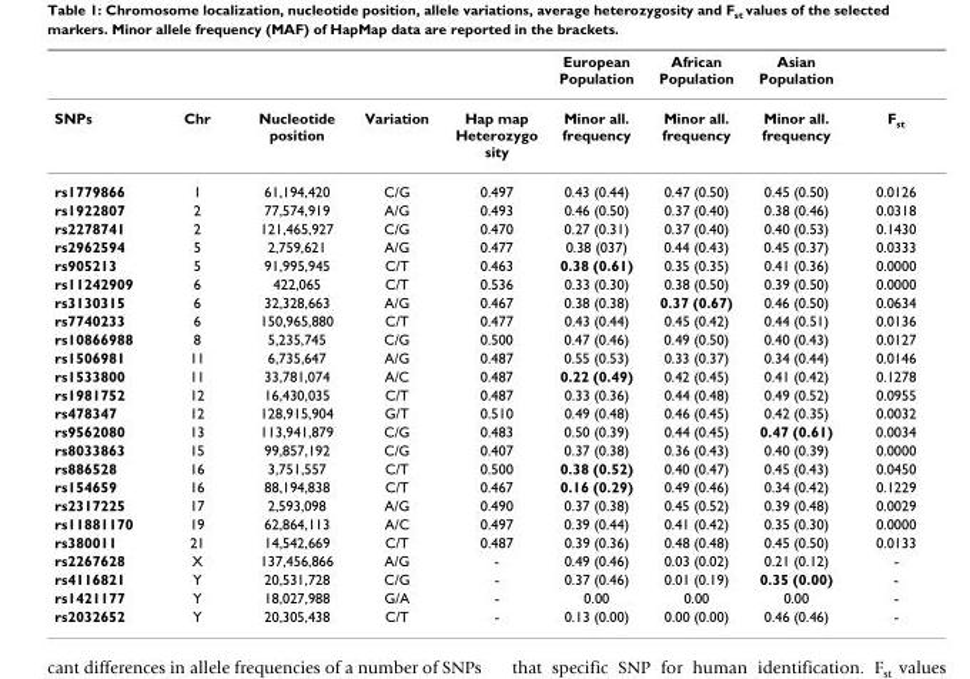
<table><thead><tr><td></td><td></td><td></td><td></td><td></td><td>European Population</td><td>African Population</td><td>Asian Population</td><td></td></tr></thead><tbody><tr><td>SNPs</td><td>Chr</td><td>Nucleotide position</td><td>Variation</td><td>Hap map Heterozygo sity</td><td>Minor all. frequency</td><td>Minor all. frequency</td><td>Minor all. frequency</td><td>F<sub>st</sub></td></tr><tr><td>rs1779866</td><td>1</td><td>61,194,420</td><td>C/G</td><td>0.497</td><td>0.43 (0.44)</td><td>0.47 (0.50)</td><td>0.45 (0.50)</td><td>0.0126</td></tr><tr><td>rs1922807</td><td>2</td><td>77,574,919</td><td>A/G</td><td>0.493</td><td>0.46 (0.50)</td><td>0.37 (0.40)</td><td>0.38 (0.46)</td><td>0.0318</td></tr><tr><td>rs2278741</td><td>2</td><td>121,465,927</td><td>C/G</td><td>0.470</td><td>0.27 (0.31)</td><td>0.37 (0.40)</td><td>0.40 (0.53)</td><td>0.1430</td></tr><tr><td>rs2962594</td><td>5</td><td>2,759,621</td><td>A/G</td><td>0.477</td><td>0.38 (037)</td><td>0.44 (0.43)</td><td>0.45 (0.37)</td><td>0.0333</td></tr><tr><td>rs905213</td><td>5</td><td>91,995,945</td><td>C/T</td><td>0.463</td><td>0.38 (0.61)</td><td>0.35 (0.35)</td><td>0.41 (0.36)</td><td>0.0000</td></tr><tr><td>rs11242909</td><td>6</td><td>422,065</td><td>C/T</td><td>0.536</td><td>0.33 (0.30)</td><td>0.38 (0.50)</td><td>0.39 (0.50)</td><td>0.0000</td></tr><tr><td>rs3130315</td><td>6</td><td>32,328,663</td><td>A/G</td><td>0.467</td><td>0.38 (0.38)</td><td>0.37 (0.67)</td><td>0.46 (0.50)</td><td>0.0634</td></tr><tr><td>rs7740233</td><td>6</td><td>150,965,880</td><td>C/T</td><td>0.477</td><td>0.43 (0.44)</td><td>0.45 (0.42)</td><td>0.44 (0.51)</td><td>0.0136</td></tr><tr><td>rs10866988</td><td>8</td><td>5,235,745</td><td>C/G</td><td>0.500</td><td>0.47 (0.46)</td><td>0.49 (0.50)</td><td>0.40 (0.43)</td><td>0.0127</td></tr><tr><td>rs1506981</td><td>11</td><td>6,735,647</td><td>A/G</td><td>0.487</td><td>0.55 (0.53)</td><td>0.33 (0.37)</td><td>0.34 (0.44)</td><td>0.0146</td></tr><tr><td>rs1533800</td><td>11</td><td>33,781,074</td><td>A/C</td><td>0.487</td><td>0.22 (0.49)</td><td>0.42 (0.45)</td><td>0.41 (0.42)</td><td>0.1278</td></tr><tr><td>rs1981752</td><td>12</td><td>16,430,035</td><td>C/T</td><td>0.487</td><td>0.33 (0.36)</td><td>0.44 (0.48)</td><td>0.49 (0.52)</td><td>0.0955</td></tr><tr><td>rs478347</td><td>12</td><td>128,915,904</td><td>G/T</td><td>0.510</td><td>0.49 (0.48)</td><td>0.46 (0.45)</td><td>0.42 (0.35)</td><td>0.0032</td></tr><tr><td>rs9562080</td><td>13</td><td>113,941,879</td><td>C/G</td><td>0.483</td><td>0.50 (0.39)</td><td>0.44 (0.45)</td><td>0.47 (0.61)</td><td>0.0034</td></tr><tr><td>rs8033863</td><td>15</td><td>99,857,192</td><td>C/G</td><td>0.407</td><td>0.37 (0.38)</td><td>0.36 (0.43)</td><td>0.40 (0.39)</td><td>0.0000</td></tr><tr><td>rs886528</td><td>16</td><td>3,751,557</td><td>C/T</td><td>0.500</td><td>0.38 (0.52)</td><td>0.40 (0.47)</td><td>0.45 (0.43)</td><td>0.0450</td></tr><tr><td>rs154659</td><td>16</td><td>88,194,838</td><td>C/T</td><td>0.467</td><td>0.16 (0.29)</td><td>0.49 (0.46)</td><td>0.34 (0.42)</td><td>0.1229</td></tr><tr><td>rs2317225</td><td>17</td><td>2,593,098</td><td>A/G</td><td>0.490</td><td>0.37 (0.38)</td><td>0.45 (0.52)</td><td>0.39 (0.48)</td><td>0.0029</td></tr><tr><td>rs11881170</td><td>19</td><td>62,864,113</td><td>A/C</td><td>0.497</td><td>0.39 (0.44)</td><td>0.41 (0.42)</td><td>0.35 (0.30)</td><td>0.0000</td></tr><tr><td>rs380011</td><td>21</td><td>14,542,669</td><td>C/T</td><td>0.487</td><td>0.39 (0.36)</td><td>0.48 (0.48)</td><td>0.45 (0.50)</td><td>0.0133</td></tr><tr><td>rs2267628</td><td>X</td><td>137,456,866</td><td>A/G</td><td>-</td><td>0.49 (0.46)</td><td>0.03 (0.02)</td><td>0.21 (0.12)</td><td>-</td></tr><tr><td>rs4116821</td><td>Y</td><td>20,531,728</td><td>C/G</td><td>-</td><td>0.37 (0.46)</td><td>0.01 (0.19)</td><td>0.35 (0.00)</td><td>-</td></tr><tr><td>rs1421177</td><td>Y</td><td>18,027,988</td><td>G/A</td><td>-</td><td>0.00</td><td>0.00</td><td>0.00</td><td>-</td></tr><tr><td>rs2032652</td><td>Y</td><td>20,305,438</td><td>C/T</td><td>-</td><td>0.13 (0.00)</td><td>0.00 (0.00)</td><td>0.46 (0.46)</td><td>-</td></tr></tbody></table>